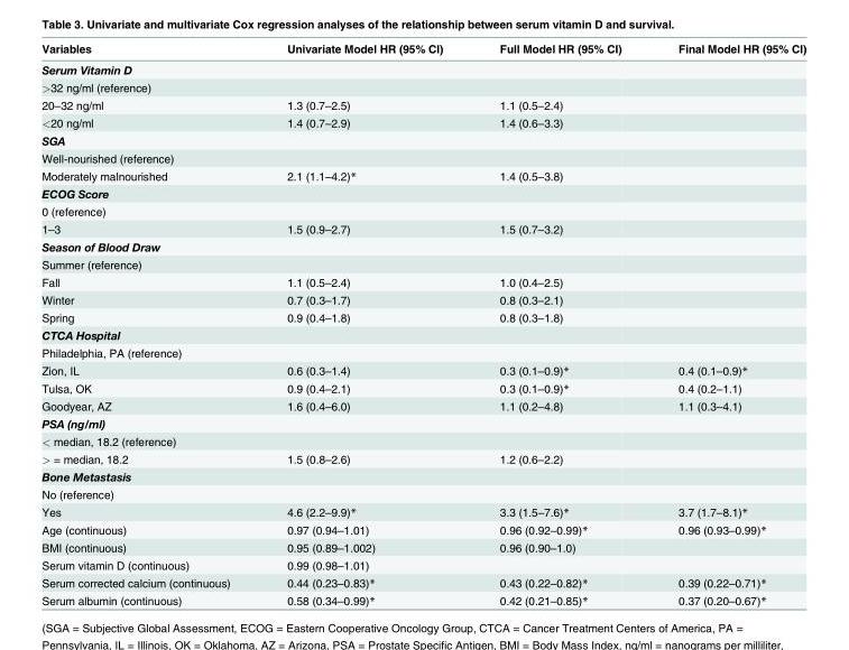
<table><thead><tr><td>Variables</td><td>Univariate Model HR (95% CI)</td><td>Full Model HR (95% CI)</td><td>Final Model HR (95% CI)</td></tr></thead><tbody><tr><td colspan="4">Serum Vitamin D</td></tr><tr><td colspan="4">&gt;32 ng/ml (reference)</td></tr><tr><td>20–32 ng/ml</td><td>1.3 (0.7–2.5)</td><td>1.1 (0.5–2.4)</td><td></td></tr><tr><td>&lt;20 ng/ml</td><td>1.4 (0.7–2.9)</td><td>1.4 (0.6–3.3)</td><td></td></tr><tr><td colspan="4">SGA</td></tr><tr><td colspan="4">Well-nourished (reference)</td></tr><tr><td>Moderately malnourished</td><td>2.1 (1.1–4.2)*</td><td>1.4 (0.5–3.8)</td><td></td></tr><tr><td colspan="4">ECOG Score</td></tr><tr><td colspan="4">0 (reference)</td></tr><tr><td>1–3</td><td>1.5 (0.9–2.7)</td><td>1.5 (0.7–3.2)</td><td></td></tr><tr><td colspan="4">Season of Blood Draw</td></tr><tr><td colspan="4">Summer (reference)</td></tr><tr><td>Fall</td><td>1.1 (0.5–2.4)</td><td>1.0 (0.4–2.5)</td><td></td></tr><tr><td>Winter</td><td>0.7 (0.3–1.7)</td><td>0.8 (0.3–2.1)</td><td></td></tr><tr><td>Spring</td><td>0.9 (0.4–1.8)</td><td>0.8 (0.3–1.8)</td><td></td></tr><tr><td colspan="4">CTCA Hospital</td></tr><tr><td colspan="4">Philadelphia, PA (reference)</td></tr><tr><td>Zion, IL</td><td>0.6 (0.3–1.4)</td><td>0.3 (0.1–0.9)*</td><td>0.4 (0.1–0.9)*</td></tr><tr><td>Tulsa, OK</td><td>0.9 (0.4–2.1)</td><td>0.3 (0.1–0.9)*</td><td>0.4 (0.2–1.1)</td></tr><tr><td>Goodyear, AZ</td><td>1.6 (0.4–6.0)</td><td>1.1 (0.2–4.8)</td><td>1.1 (0.3–4.1)</td></tr><tr><td colspan="4">PSA (ng/ml)</td></tr><tr><td colspan="4">&lt; median, 18.2 (reference)</td></tr><tr><td>&gt; = median, 18.2</td><td>1.5 (0.8–2.6)</td><td>1.2 (0.6–2.2)</td><td></td></tr><tr><td colspan="4">Bone Metastasis</td></tr><tr><td colspan="4">No (reference)</td></tr><tr><td>Yes</td><td>4.6 (2.2–9.9)*</td><td>3.3 (1.5–7.6)*</td><td>3.7 (1.7–8.1)*</td></tr><tr><td>Age (continuous)</td><td>0.97 (0.94–1.01)</td><td>0.96 (0.92–0.99)*</td><td>0.96 (0.93–0.99)*</td></tr><tr><td>BMI (continuous)</td><td>0.95 (0.89–1.002)</td><td>0.96 (0.90–1.0)</td><td></td></tr><tr><td>Serum vitamin D (continuous)</td><td>0.99 (0.98–1.01)</td><td></td><td></td></tr><tr><td>Serum corrected calcium (continuous)</td><td>0.44 (0.23–0.83)*</td><td>0.43 (0.22–0.82)*</td><td>0.39 (0.22–0.71)*</td></tr><tr><td>Serum albumin (continuous)</td><td>0.58 (0.34–0.99)*</td><td>0.42 (0.21–0.85)*</td><td>0.37 (0.20–0.67)*</td></tr></tbody></table>